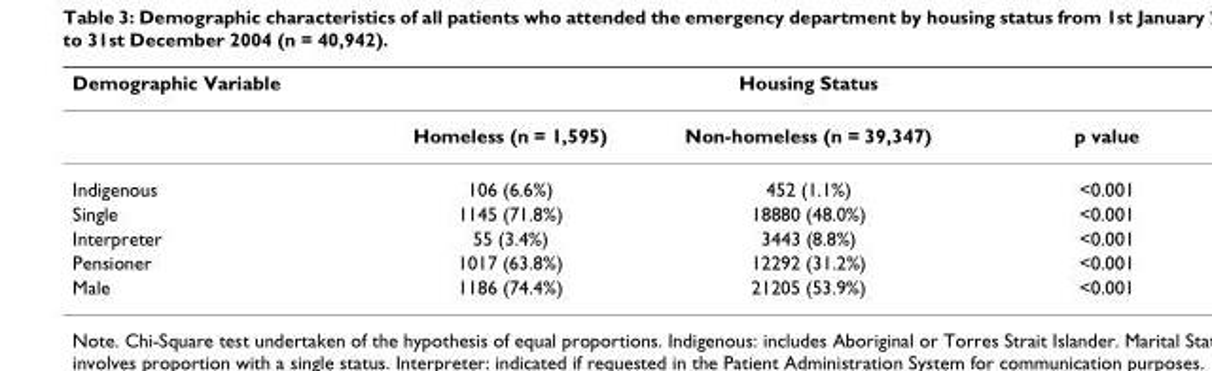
<table><thead><tr><td rowspan="2">Demographic Variable</td><td colspan="3">Housing Status</td></tr><tr><td>Homeless (n = 1,595)</td><td>Non-homeless (n = 39,347)</td><td>p value</td></tr></thead><tbody><tr><td>Indigenous</td><td>106 (6.6%)</td><td>452 (1.1%)</td><td>&lt;0.001</td></tr><tr><td>Single</td><td>1145 (71.8%)</td><td>18880 (48.0%)</td><td>&lt;0.001</td></tr><tr><td>Interpreter</td><td>55 (3.4%)</td><td>3443 (8.8%)</td><td>&lt;0.001</td></tr><tr><td>Pensioner</td><td>1017 (63.8%)</td><td>12292 (31.2%)</td><td>&lt;0.001</td></tr><tr><td>Male</td><td>1186 (74.4%)</td><td>21205 (53.9%)</td><td>&lt;0.001</td></tr></tbody></table>